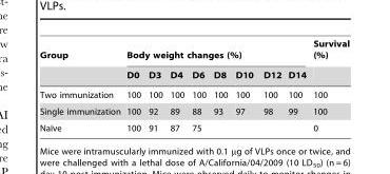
<table><thead><tr><td rowspan="2">Group</td><td colspan="8">Body weight changes (%)</td><td rowspan="2">Survival (%)</td></tr><tr><td>D0</td><td>D3</td><td>D4</td><td>D6</td><td>D8</td><td>D10</td><td>D12</td><td>D14</td></tr></thead><tbody><tr><td>Two immunization</td><td>100</td><td>100</td><td>100</td><td>100</td><td>100</td><td>100</td><td>100</td><td>100</td><td>100</td></tr><tr><td>Single immunization</td><td>100</td><td>92</td><td>89</td><td>88</td><td>93</td><td>97</td><td>98</td><td>99</td><td>100</td></tr><tr><td>Naı¨ve</td><td>100</td><td>91</td><td>87</td><td>75</td><td></td><td></td><td></td><td></td><td>0</td></tr></tbody></table>